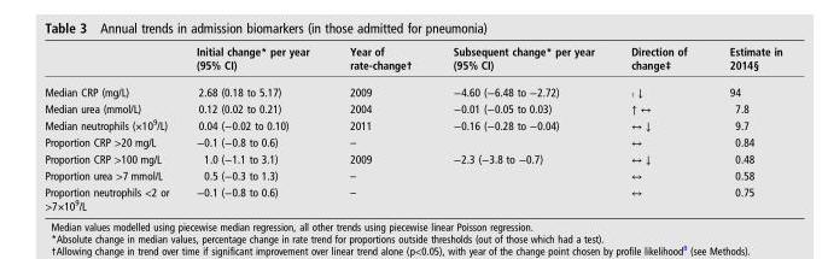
<table><thead><tr><td></td><td>Initial change* per year (95% CI)</td><td>Year of rate-change†</td><td>Subsequent change* per year (95% CI)</td><td>Direction of change‡</td><td>Estimate in 2014§</td></tr></thead><tbody><tr><td>Median CRP (mg/L)</td><td>2.68 (0.18 to 5.17)</td><td>2009</td><td>−4.60 (−6.48 to −2.72)</td><td>↑ ↓</td><td>94</td></tr><tr><td>Median urea (mmol/L)</td><td>0.12 (0.02 to 0.21)</td><td>2004</td><td>−0.01 (−0.05 to 0.03)</td><td>↑ ↔</td><td>7.8</td></tr><tr><td>Median neutrophils (×10<sup>9</sup>/L)</td><td>0.04 (−0.02 to 0.10)</td><td>2011</td><td>−0.16 (−0.28 to −0.04)</td><td>↔ ↓</td><td>9.7</td></tr><tr><td>Proportion CRP &gt;20 mg/L</td><td>−0.1 (−0.8 to 0.6)</td><td>–</td><td></td><td>↔</td><td>0.84</td></tr><tr><td>Proportion CRP &gt;100 mg/L</td><td>1.0 (−1.1 to 3.1)</td><td>2009</td><td>−2.3 (−3.8 to −0.7)</td><td>↔ ↓</td><td>0.48</td></tr><tr><td>Proportion urea &gt;7 mmol/L</td><td>0.5 (−0.3 to 1.3)</td><td>–</td><td></td><td>↔</td><td>0.58</td></tr><tr><td>Proportion neutrophils &lt;2 or &gt;7×10<sup>9</sup>/L</td><td>−0.1 (−0.8 to 0.6)</td><td>–</td><td></td><td>↔</td><td>0.75</td></tr></tbody></table>